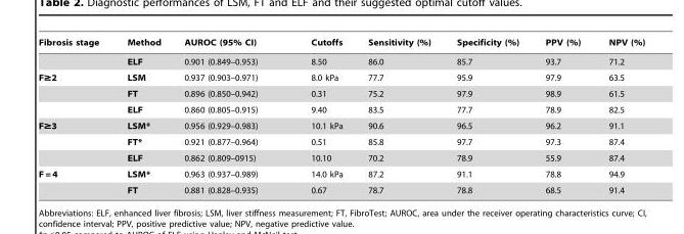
<table><thead><tr><td>Fibrosis stage</td><td>Method</td><td>AUROC (95% CI)</td><td>Cutoffs</td><td>Sensitivity (%)</td><td>Specificity (%)</td><td>PPV (%)</td><td>NPV (%)</td></tr></thead><tbody><tr><td></td><td>ELF</td><td>0.901 (0.849–0.953)</td><td>8.50</td><td>86.0</td><td>85.7</td><td>93.7</td><td>71.2</td></tr><tr><td rowspan="3">F≥2</td><td>LSM</td><td>0.937 (0.903–0.971)</td><td>8.0 kPa</td><td>77.7</td><td>95.9</td><td>97.9</td><td>63.5</td></tr><tr><td>FT</td><td>0.896 (0.850–0.942)</td><td>0.31</td><td>75.2</td><td>97.9</td><td>98.9</td><td>61.5</td></tr><tr><td>ELF</td><td>0.860 (0.805–0.915)</td><td>9.40</td><td>83.5</td><td>77.7</td><td>78.9</td><td>82.5</td></tr><tr><td rowspan="3">F≥3</td><td>LSM*</td><td>0.956 (0.929–0.983)</td><td>10.1 kPa</td><td>90.6</td><td>96.5</td><td>96.2</td><td>91.1</td></tr><tr><td>FT*</td><td>0.921 (0.877–0.964)</td><td>0.51</td><td>85.8</td><td>97.7</td><td>97.3</td><td>87.4</td></tr><tr><td>ELF</td><td>0.862 (0.809–0915)</td><td>10.10</td><td>70.2</td><td>78.9</td><td>55.9</td><td>87.4</td></tr><tr><td rowspan="2">F = 4</td><td>LSM*</td><td>0.963 (0.937–0.989)</td><td>14.0 kPa</td><td>87.2</td><td>91.1</td><td>78.8</td><td>94.9</td></tr><tr><td>FT</td><td>0.881 (0.828–0.935)</td><td>0.67</td><td>78.7</td><td>78.8</td><td>68.5</td><td>91.4</td></tr></tbody></table>